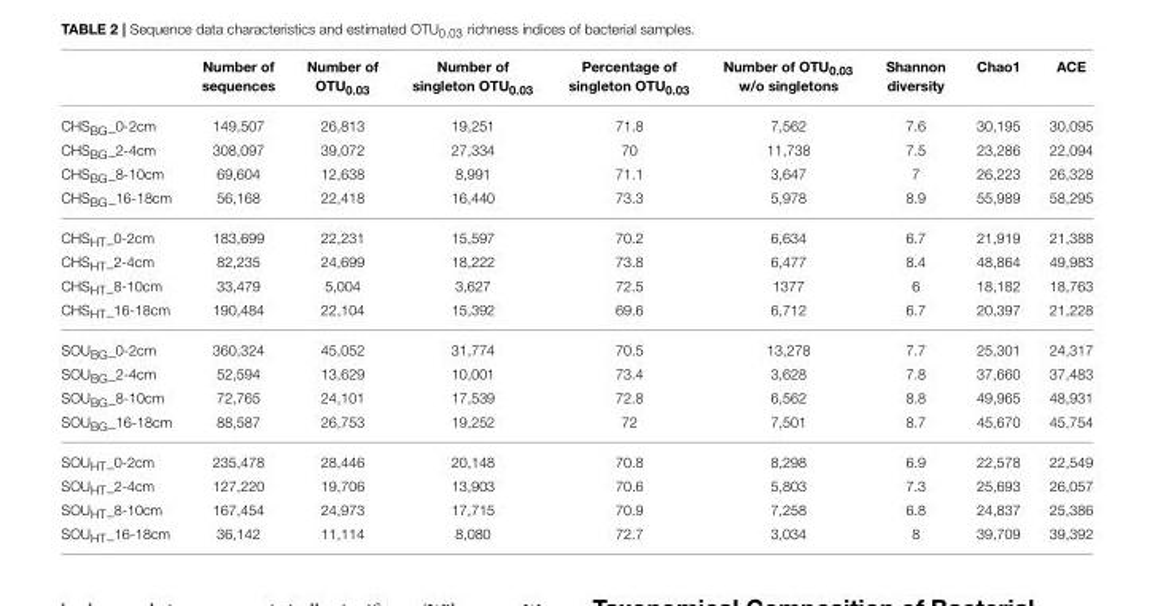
<table><thead><tr><td></td><td>Number of sequences</td><td>Number of OTU<sub>0.03</sub></td><td>Number of singleton OTU<sub>0.03</sub></td><td>Percentage of singleton OTU<sub>0.03</sub></td><td>Number of OTU<sub>0.03</sub> w/o singletons</td><td>Shannon diversity</td><td>Chao1</td><td>ACE</td></tr></thead><tbody><tr><td>CHSBG_0-2cm</td><td>149,507</td><td>26,813</td><td>19,251</td><td>71.8</td><td>7,562</td><td>7.6</td><td>30,195</td><td>30,095</td></tr><tr><td>CHSBG_2-4cm</td><td>308,097</td><td>39,072</td><td>27,334</td><td>70</td><td>11,738</td><td>7.5</td><td>23,286</td><td>22,094</td></tr><tr><td>CHSBG_8-10cm</td><td>69,604</td><td>12,638</td><td>8,991</td><td>71.1</td><td>3,647</td><td>7</td><td>26,223</td><td>26,328</td></tr><tr><td>CHSBG_16-18cm</td><td>56,168</td><td>22,418</td><td>16,440</td><td>73.3</td><td>5,978</td><td>8.9</td><td>55,989</td><td>58,295</td></tr><tr><td>CHSHT_0-2cm</td><td>183,699</td><td>22,231</td><td>15,597</td><td>70.2</td><td>6,634</td><td>6.7</td><td>21,919</td><td>21,388</td></tr><tr><td>CHSHT_2-4cm</td><td>82,235</td><td>24,699</td><td>18,222</td><td>73.8</td><td>6,477</td><td>8.4</td><td>48,864</td><td>49,983</td></tr><tr><td>CHSHT_8-10cm</td><td>33,479</td><td>5,004</td><td>3,627</td><td>72.5</td><td>1377</td><td>6</td><td>18,182</td><td>18,763</td></tr><tr><td>CHSHT_16-18cm</td><td>190,484</td><td>22,104</td><td>15,392</td><td>69.6</td><td>6,712</td><td>6.7</td><td>20,397</td><td>21,228</td></tr><tr><td>SOUBG_0-2cm</td><td>360,324</td><td>45,052</td><td>31,774</td><td>70.5</td><td>13,278</td><td>7.7</td><td>25,301</td><td>24,317</td></tr><tr><td>SOUBG_2-4cm</td><td>52,594</td><td>13,629</td><td>10,001</td><td>73.4</td><td>3,628</td><td>7.8</td><td>37,660</td><td>37,483</td></tr><tr><td>SOUBG_8-10cm</td><td>72,765</td><td>24,101</td><td>17,539</td><td>72.8</td><td>6,562</td><td>8.8</td><td>49,965</td><td>48,931</td></tr><tr><td>SOUBG_16-18cm</td><td>88,587</td><td>26,753</td><td>19,252</td><td>72</td><td>7,501</td><td>8.7</td><td>45,670</td><td>45,754</td></tr><tr><td>SOUHT_0-2cm</td><td>235,478</td><td>28,446</td><td>20,148</td><td>70.8</td><td>8,298</td><td>6.9</td><td>22,578</td><td>22,549</td></tr><tr><td>SOUHT_2-4cm</td><td>127,220</td><td>19,706</td><td>13,903</td><td>70.6</td><td>5,803</td><td>7.3</td><td>25,693</td><td>26,057</td></tr><tr><td>SOUHT_8-10cm</td><td>167,454</td><td>24,973</td><td>17,715</td><td>70.9</td><td>7,258</td><td>6.8</td><td>24,837</td><td>25,386</td></tr><tr><td>SOUHT_16-18cm</td><td>36,142</td><td>11,114</td><td>8,080</td><td>72.7</td><td>3,034</td><td>8</td><td>39,709</td><td>39,392</td></tr></tbody></table>